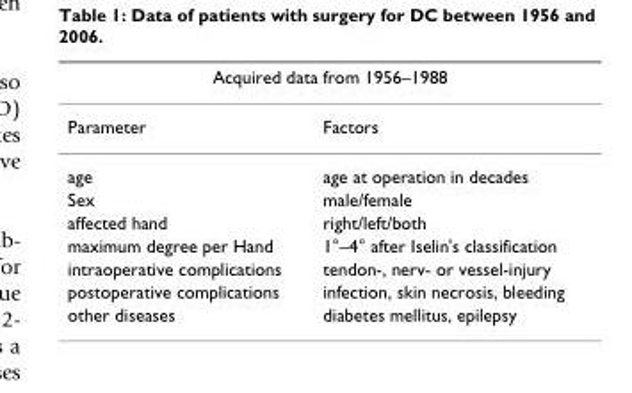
<table><thead><tr><td colspan="2">Acquired data from 1956–1988</td></tr><tr><td>Parameter</td><td>Factors</td></tr></thead><tbody><tr><td>age</td><td>age at operation in decades</td></tr><tr><td>Sex</td><td>male/female</td></tr><tr><td>affected hand</td><td>right/left/both</td></tr><tr><td>maximum degree per Hand</td><td>1°–4° after Iselin&#x27;s classification</td></tr><tr><td>intraoperative complications</td><td>tendon-, nerv- or vessel-injury</td></tr><tr><td>postoperative complications</td><td>infection, skin necrosis, bleeding</td></tr><tr><td>other diseases</td><td>diabetes mellitus, epilepsy</td></tr></tbody></table>